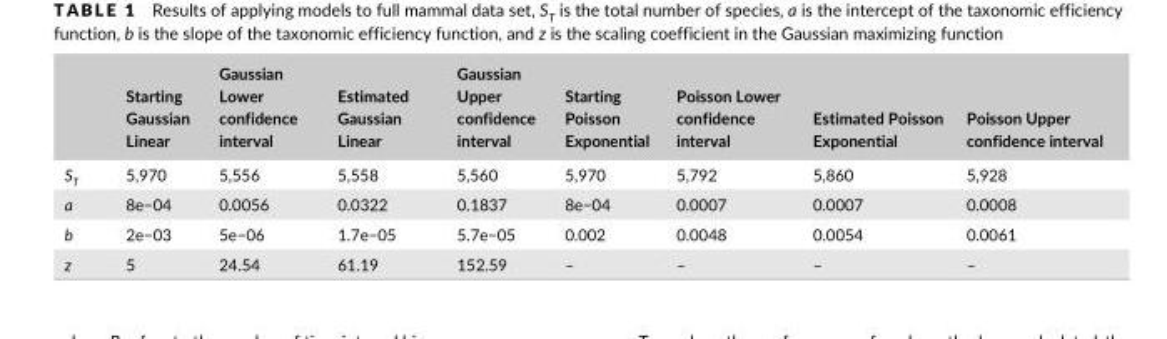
<table><thead><tr><td></td><td>Starting Gaussian Linear</td><td>Gaussian Lower confidence interval</td><td>Estimated Gaussian Linear</td><td>Gaussian Upper confidence interval</td><td>Starting Poisson Exponential</td><td>Poisson Lower confidence interval</td><td>Estimated Poisson Exponential</td><td>Poisson Upper confidence interval</td></tr></thead><tbody><tr><td>S<sub>T</sub></td><td>5,970</td><td>5,556</td><td>5,558</td><td>5,560</td><td>5,970</td><td>5,792</td><td>5,860</td><td>5,928</td></tr><tr><td>a</td><td>8e−04</td><td>0.0056</td><td>0.0322</td><td>0.1837</td><td>8e−04</td><td>0.0007</td><td>0.0007</td><td>0.0008</td></tr><tr><td>b</td><td>2e−03</td><td>5e−06</td><td>1.7e−05</td><td>5.7e−05</td><td>0.002</td><td>0.0048</td><td>0.0054</td><td>0.0061</td></tr><tr><td>z</td><td>5</td><td>24.54</td><td>61.19</td><td>152.59</td><td>–</td><td>–</td><td>–</td><td>–</td></tr></tbody></table>